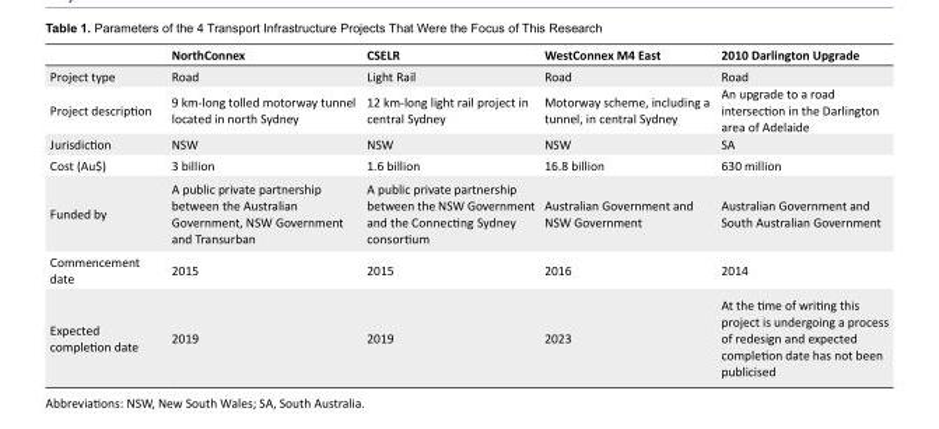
<table><thead><tr><td></td><td>NorthConnex</td><td>CSELR</td><td>WestConnex M4 East</td><td>2010 Darlington Upgrade</td></tr></thead><tbody><tr><td>Project type</td><td>Road</td><td>Light Rail</td><td>Road</td><td>Road</td></tr><tr><td>Project description</td><td>9 km-long tolled motorway tunnel located in north Sydney</td><td>12 km-long light rail project in central Sydney</td><td>Motorway scheme, including a tunnel, in central Sydney</td><td>An upgrade to a road intersection in the Darlington area of Adelaide</td></tr><tr><td>Jurisdiction</td><td>NSW</td><td>NSW</td><td>NSW</td><td>SA</td></tr><tr><td>Cost (Au$)</td><td>3 billion</td><td>1.6 billion</td><td>16.8 billion</td><td>630 million</td></tr><tr><td>Funded by</td><td>A public private partnership between the Australian Government, NSW Government and Transurban</td><td>A public private partnership between the NSW Government and the Connecting Sydney consortium</td><td>Australian Government and NSW Government</td><td>Australian Government and South Australian Government</td></tr><tr><td>Commencement date</td><td>2015</td><td>2015</td><td>2016</td><td>2014</td></tr><tr><td>Expected completion date</td><td>2019</td><td>2019</td><td>2023</td><td>At the time of writing this project is undergoing a process of redesign and expected completion date has not been publicised</td></tr></tbody></table>